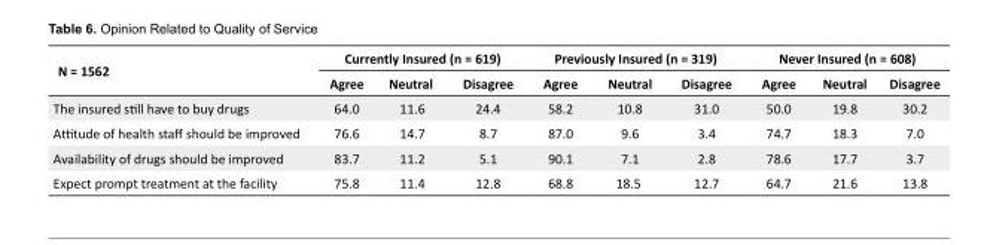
<table><tbody><tr><td rowspan="2">N = 1562</td><td colspan="3">Currently Insured (n = 619)</td><td colspan="3">Previously Insured (n = 319)</td><td colspan="3">Never Insured (n = 608)</td></tr><tr><td>Agree</td><td>Neutral</td><td>Disagree</td><td>Agree</td><td>Neutral</td><td>Disagree</td><td>Agree</td><td>Neutral</td><td>Disagree</td></tr><tr><td>The insured still have to buy drugs</td><td>64.0</td><td>11.6</td><td>24.4</td><td>58.2</td><td>10.8</td><td>31.0</td><td>50.0</td><td>19.8</td><td>30.2</td></tr><tr><td>Attitude of health staff should be improved</td><td>76.6</td><td>14.7</td><td>8.7</td><td>87.0</td><td>9.6</td><td>3.4</td><td>74.7</td><td>18.3</td><td>7.0</td></tr><tr><td>Availability of drugs should be improved</td><td>83.7</td><td>11.2</td><td>5.1</td><td>90.1</td><td>7.1</td><td>2.8</td><td>78.6</td><td>17.7</td><td>3.7</td></tr><tr><td>Expect prompt treatment at the facility</td><td>75.8</td><td>11.4</td><td>12.8</td><td>68.8</td><td>18.5</td><td>12.7</td><td>64.7</td><td>21.6</td><td>13.8</td></tr></tbody></table>